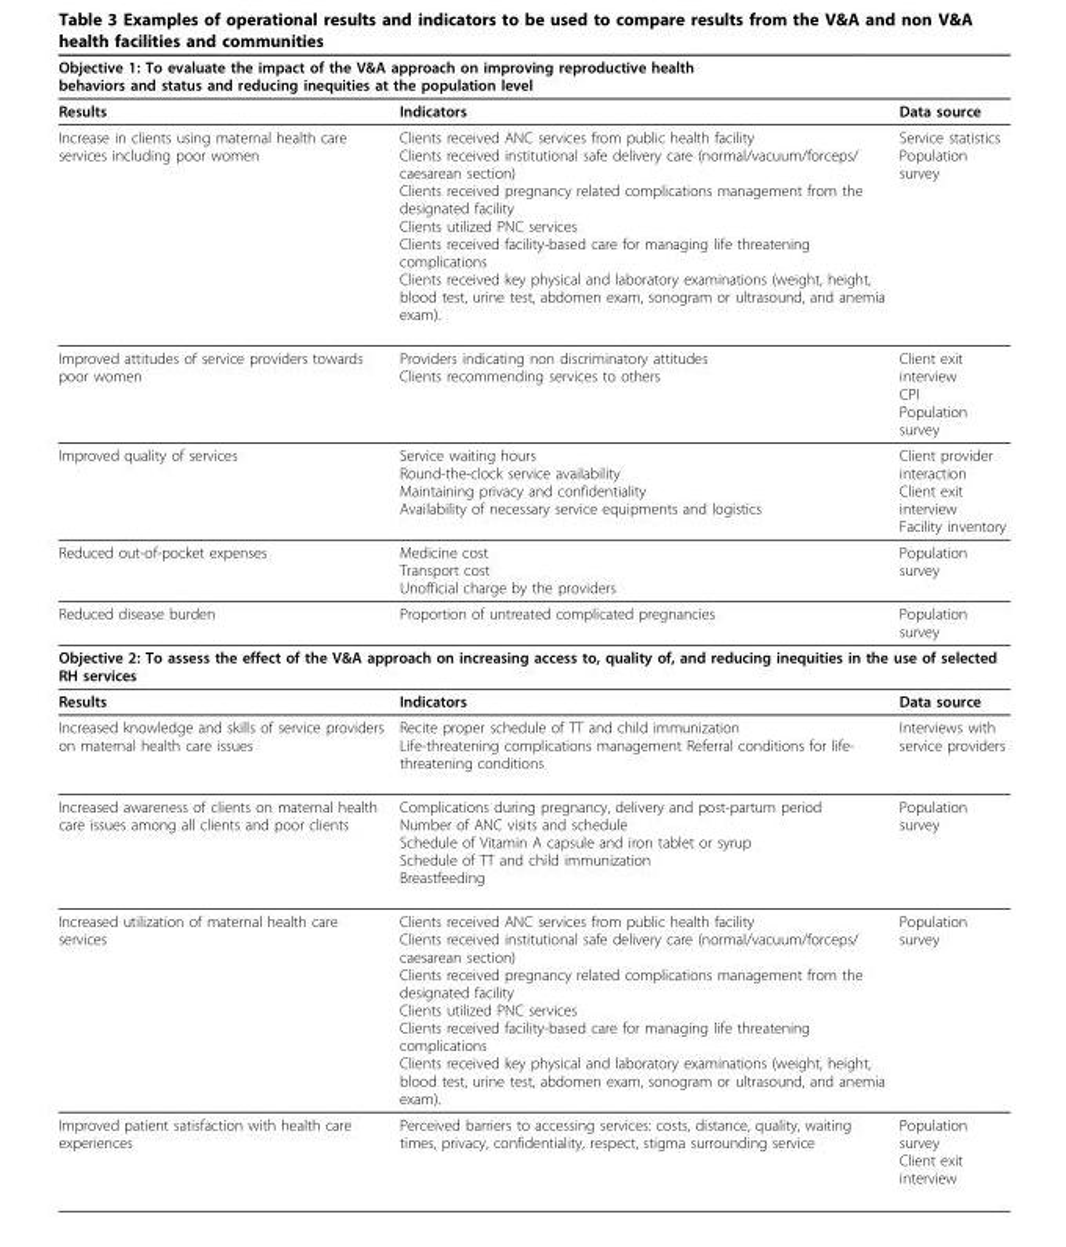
<table><thead><tr><td colspan="3">Objective 1: To evaluate the impact of the V&amp;A approach on improving reproductive health behaviors and status and reducing inequities at the population level</td></tr><tr><td>Results</td><td>Indicators</td><td>Data source</td></tr></thead><tbody><tr><td>Increase in clients using maternal health care services including poor women</td><td>Clients received ANC services from public health facility Clients received institutional safe delivery care (normal/vacuum/forceps/ caesarean section) Clients received pregnancy related complications management from the designated facility Clients utilized PNC services Clients received facility-based care for managing life threatening complications Clients received key physical and laboratory examinations (weight, height, blood test, urine test, abdomen exam, sonogram or ultrasound, and anemia exam).</td><td>Service statistics Population survey</td></tr><tr><td>Improved attitudes of service providers towards poor women</td><td>Providers indicating non discriminatory attitudes Clients recommending services to others</td><td>Client exit interview CPI Population survey</td></tr><tr><td>Improved quality of services</td><td>Service waiting hours Round-the-clock service availability Maintaining privacy and confidentiality Availability of necessary service equipments and logistics</td><td>Client provider interaction Client exit interview Facility inventory</td></tr><tr><td>Reduced out-of-pocket expenses</td><td>Medicine cost Transport cost Unofficial charge by the providers</td><td>Population survey</td></tr><tr><td>Reduced disease burden</td><td>Proportion of untreated complicated pregnancies</td><td>Population survey</td></tr><tr><td colspan="3">Objective 2: To assess the effect of the V&amp;A approach on increasing access to, quality of, and reducing inequities in the use of selected RH services</td></tr><tr><td>Results</td><td>Indicators</td><td>Data source</td></tr><tr><td>Increased knowledge and skills of service providers on maternal health care issues</td><td>Recite proper schedule of TT and child immunization Life-threatening complications management Referral conditions for life- threatening conditions</td><td>Interviews with service providers</td></tr><tr><td>Increased awareness of clients on maternal health care issues among all clients and poor clients</td><td>Complications during pregnancy, delivery and post-partum period Number of ANC visits and schedule Schedule of Vitamin A capsule and iron tablet or syrup Schedule of TT and child immunization Breastfeeding</td><td>Population survey</td></tr><tr><td>Increased utilization of maternal health care services</td><td>Clients received ANC services from public health facility Clients received institutional safe delivery care (normal/vacuum/forceps/ caesarean section) Clients received pregnancy related complications management from the designated facility Clients utilized PNC services Clients received facility-based care for managing life threatening complications Clients received key physical and laboratory examinations (weight, height, blood test, urine test, abdomen exam, sonogram or ultrasound, and anemia exam).</td><td>Population survey</td></tr><tr><td>Improved patient satisfaction with health care experiences</td><td>Perceived barriers to accessing services: costs, distance, quality, waiting times, privacy, confidentiality, respect, stigma surrounding service</td><td>Population survey Client exit interview</td></tr></tbody></table>